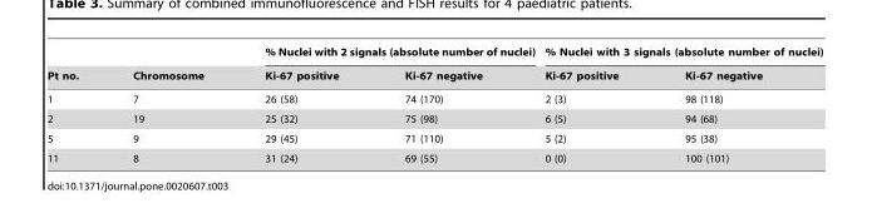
<table><thead><tr><td rowspan="2">Pt no.</td><td rowspan="2">Chromosome</td><td colspan="2">% Nuclei with 2 signals (absolute number of nuclei)</td><td colspan="2">% Nuclei with 3 signals (absolute number of nuclei)</td></tr><tr><td>Ki-67 positive</td><td>Ki-67 negative</td><td>Ki-67 positive</td><td>Ki-67 negative</td></tr></thead><tbody><tr><td>1</td><td>7</td><td>26 (58)</td><td>74 (170)</td><td>2 (3)</td><td>98 (118)</td></tr><tr><td>2</td><td>19</td><td>25 (32)</td><td>75 (98)</td><td>6 (5)</td><td>94 (68)</td></tr><tr><td>5</td><td>9</td><td>29 (45)</td><td>71 (110)</td><td>5 (2)</td><td>95 (38)</td></tr><tr><td>11</td><td>8</td><td>31 (24)</td><td>69 (55)</td><td>0 (0)</td><td>100 (101)</td></tr></tbody></table>